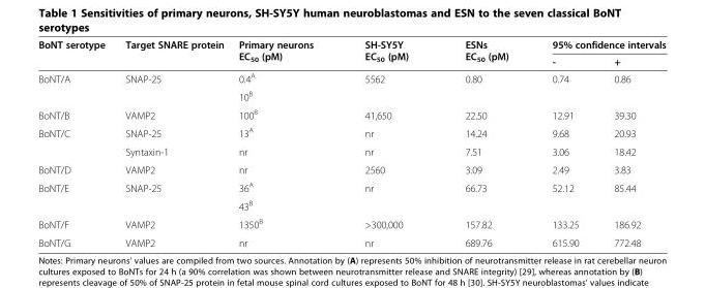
<table><thead><tr><td rowspan="2">BoNT serotype</td><td rowspan="2">Target SNARE protein</td><td rowspan="2">Primary neurons EC<sub>50</sub> (pM)</td><td rowspan="2">SH-SY5Y EC<sub>50</sub> (pM)</td><td rowspan="2">ESNs EC<sub>50</sub> (pM)</td><td colspan="2">95% confidence intervals</td></tr><tr><td>-</td><td>+</td></tr></thead><tbody><tr><td rowspan="2">BoNT/A</td><td rowspan="2">SNAP-25</td><td>0.4<sup>A</sup></td><td rowspan="2">5562</td><td rowspan="2">0.80</td><td rowspan="2">0.74</td><td rowspan="2">0.86</td></tr><tr><td>10<sup>B</sup></td></tr><tr><td>BoNT/B</td><td>VAMP2</td><td>100<sup>B</sup></td><td>41,650</td><td>22.50</td><td>12.91</td><td>39.30</td></tr><tr><td rowspan="2">BoNT/C</td><td>SNAP-25</td><td>13<sup>A</sup></td><td>nr</td><td>14.24</td><td>9.68</td><td>20.93</td></tr><tr><td>Syntaxin-1</td><td>nr</td><td>nr</td><td>7.51</td><td>3.06</td><td>18.42</td></tr><tr><td>BoNT/D</td><td>VAMP2</td><td>nr</td><td>2560</td><td>3.09</td><td>2.49</td><td>3.83</td></tr><tr><td rowspan="2">BoNT/E</td><td rowspan="2">SNAP-25</td><td>36<sup>A</sup></td><td rowspan="2">nr</td><td rowspan="2">66.73</td><td rowspan="2">52.12</td><td rowspan="2">85.44</td></tr><tr><td>43<sup>B</sup></td></tr><tr><td>BoNT/F</td><td>VAMP2</td><td>1350<sup>B</sup></td><td>&gt;300,000</td><td>157.82</td><td>133.25</td><td>186.92</td></tr><tr><td>BoNT/G</td><td>VAMP2</td><td>nr</td><td>nr</td><td>689.76</td><td>615.90</td><td>772.48</td></tr></tbody></table>